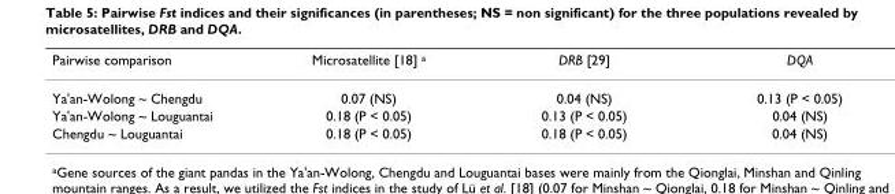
<table><thead><tr><td>Pairwise comparison</td><td>Microsatellite [18] <sup>a</sup></td><td>DRB [29]</td><td>DQA</td></tr></thead><tbody><tr><td>Ya&#x27;an-Wolong ~ Chengdu</td><td>0.07 (NS)</td><td>0.04 (NS)</td><td>0.13 (P &lt; 0.05)</td></tr><tr><td>Ya&#x27;an-Wolong ~ Louguantai</td><td>0.18 (P &lt; 0.05)</td><td>0.13 (P &lt; 0.05)</td><td>0.04 (NS)</td></tr><tr><td>Chengdu ~ Louguantai</td><td>0.18 (P &lt; 0.05)</td><td>0.18 (P &lt; 0.05)</td><td>0.04 (NS)</td></tr></tbody></table>